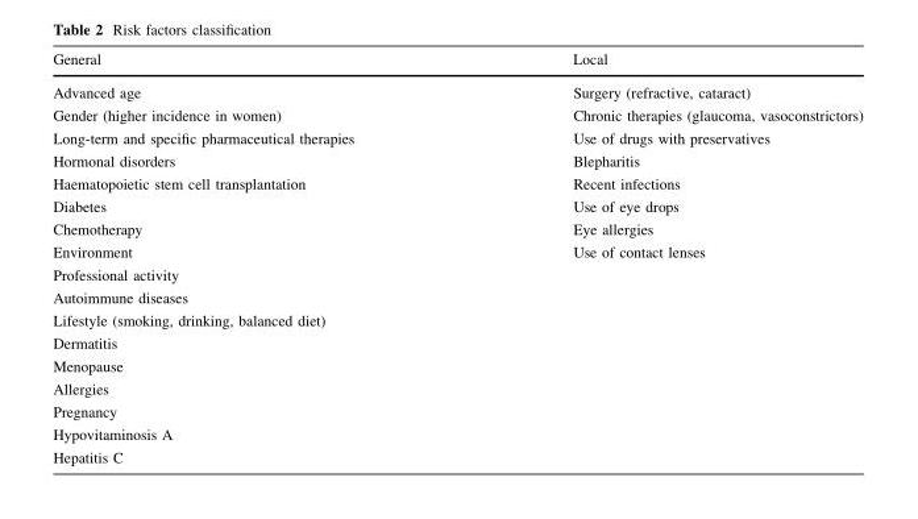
<table><thead><tr><td>General</td><td>Local</td></tr></thead><tbody><tr><td>Advanced age</td><td>Surgery (refractive, cataract)</td></tr><tr><td>Gender (higher incidence in women)</td><td>Chronic therapies (glaucoma, vasoconstrictors)</td></tr><tr><td>Long-term and specific pharmaceutical therapies</td><td>Use of drugs with preservatives</td></tr><tr><td>Hormonal disorders</td><td>Blepharitis</td></tr><tr><td>Haematopoietic stem cell transplantation</td><td>Recent infections</td></tr><tr><td>Diabetes</td><td>Use of eye drops</td></tr><tr><td>Chemotherapy</td><td>Eye allergies</td></tr><tr><td>Environment</td><td>Use of contact lenses</td></tr><tr><td colspan="2">Professional activity</td></tr><tr><td colspan="2">Autoimmune diseases</td></tr><tr><td colspan="2">Lifestyle (smoking, drinking, balanced diet)</td></tr><tr><td colspan="2">Dermatitis</td></tr><tr><td colspan="2">Menopause</td></tr><tr><td colspan="2">Allergies</td></tr><tr><td colspan="2">Pregnancy</td></tr><tr><td colspan="2">Hypovitaminosis A</td></tr><tr><td>Hepatitis C</td><td></td></tr></tbody></table>